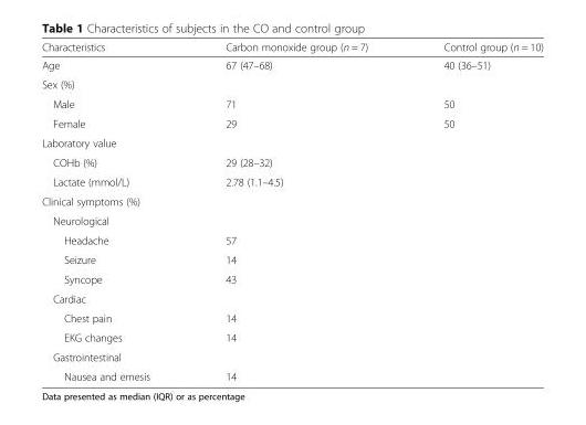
<table><thead><tr><td>Characteristics</td><td>Carbon monoxide group (n = 7)</td><td>Control group (n = 10)</td></tr></thead><tbody><tr><td>Age</td><td>67 (47–68)</td><td>40 (36–51)</td></tr><tr><td colspan="3">Sex (%)</td></tr><tr><td>Male</td><td>71</td><td>50</td></tr><tr><td>Female</td><td>29</td><td>50</td></tr><tr><td colspan="3">Laboratory value</td></tr><tr><td>COHb (%)</td><td>29 (28–32)</td><td></td></tr><tr><td>Lactate (mmol/L)</td><td>2.78 (1.1–4.5)</td><td></td></tr><tr><td colspan="3">Clinical symptoms (%)</td></tr><tr><td colspan="3">Neurological</td></tr><tr><td>Headache</td><td>57</td><td></td></tr><tr><td>Seizure</td><td>14</td><td></td></tr><tr><td>Syncope</td><td>43</td><td></td></tr><tr><td colspan="3">Cardiac</td></tr><tr><td>Chest pain</td><td>14</td><td></td></tr><tr><td>EKG changes</td><td>14</td><td></td></tr><tr><td colspan="3">Gastrointestinal</td></tr><tr><td>Nausea and emesis</td><td>14</td><td></td></tr></tbody></table>